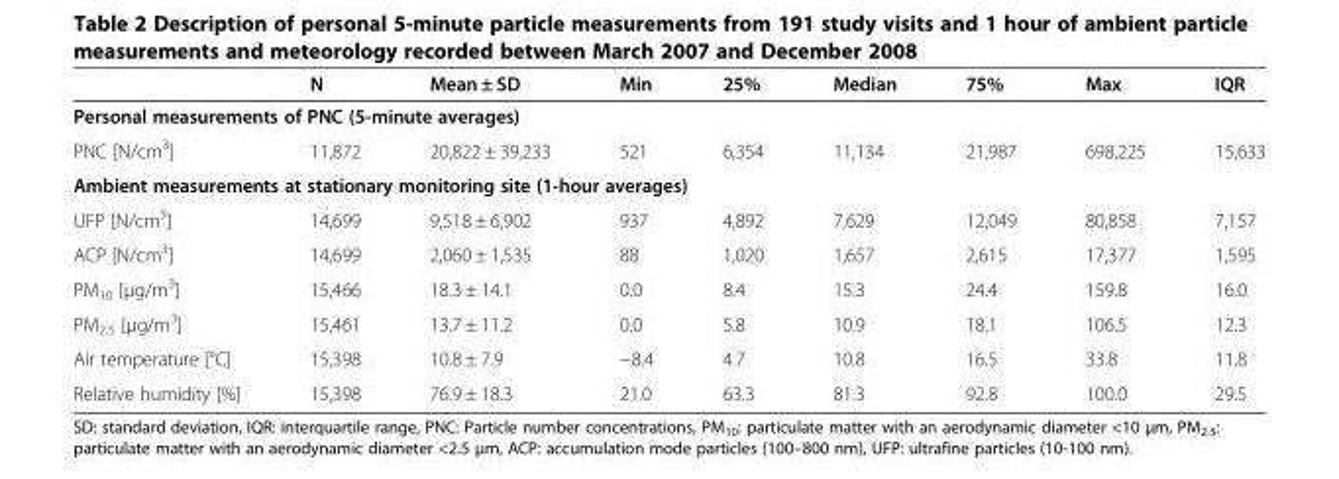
<table><thead><tr><td></td><td>N</td><td>Mean ± SD</td><td>Min</td><td>25%</td><td>Median</td><td>75%</td><td>Max</td><td>IQR</td></tr></thead><tbody><tr><td colspan="9">Personal measurements of PNC (5-minute averages)</td></tr><tr><td>PNC [N/cm<sup>3</sup>]</td><td>11,872</td><td>20,822 ± 39,233</td><td>521</td><td>6,354</td><td>11,134</td><td>21,987</td><td>698,225</td><td>15,633</td></tr><tr><td colspan="9">Ambient measurements at stationary monitoring site (1-hour averages)</td></tr><tr><td>UFP [N/cm<sup>3</sup>]</td><td>14,699</td><td>9,518 ± 6,902</td><td>937</td><td>4,892</td><td>7,629</td><td>12,049</td><td>80,858</td><td>7,157</td></tr><tr><td>ACP [N/cm<sup>3</sup>]</td><td>14,699</td><td>2,060 ± 1,535</td><td>88</td><td>1,020</td><td>1,657</td><td>2,615</td><td>17,377</td><td>1,595</td></tr><tr><td>PM<sub>10</sub> [μg/m<sup>3</sup>]</td><td>15,466</td><td>18.3 ± 14.1</td><td>0.0</td><td>8.4</td><td>15.3</td><td>24.4</td><td>159.8</td><td>16.0</td></tr><tr><td>PM<sub>2.5</sub> [μg/m<sup>3</sup>]</td><td>15,461</td><td>13.7 ± 11.2</td><td>0.0</td><td>5.8</td><td>10.9</td><td>18.1</td><td>106.5</td><td>12.3</td></tr><tr><td>Air temperature [°C]</td><td>15,398</td><td>10.8 ± 7.9</td><td>−8.4</td><td>4.7</td><td>10.8</td><td>16.5</td><td>33.8</td><td>11.8</td></tr><tr><td>Relative humidity [%]</td><td>15,398</td><td>76.9 ± 18.3</td><td>21.0</td><td>63.3</td><td>81.3</td><td>92.8</td><td>100.0</td><td>29.5</td></tr></tbody></table>